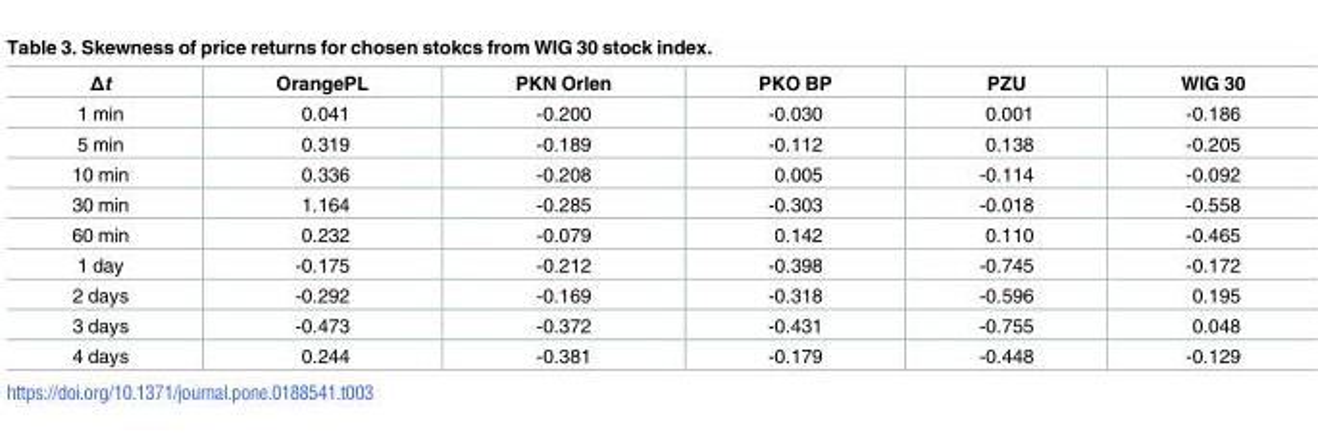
<table><thead><tr><td>Δt</td><td>OrangePL</td><td>PKN Orlen</td><td>PKO BP</td><td>PZU</td><td>WIG 30</td></tr></thead><tbody><tr><td>1 min</td><td>0.041</td><td>-0.200</td><td>-0.030</td><td>0.001</td><td>-0.186</td></tr><tr><td>5 min</td><td>0.319</td><td>-0.189</td><td>-0.112</td><td>0.138</td><td>-0.205</td></tr><tr><td>10 min</td><td>0.336</td><td>-0.208</td><td>0.005</td><td>-0.114</td><td>-0.092</td></tr><tr><td>30 min</td><td>1.164</td><td>-0.285</td><td>-0.303</td><td>-0.018</td><td>-0.558</td></tr><tr><td>60 min</td><td>0.232</td><td>-0.079</td><td>0.142</td><td>0.110</td><td>-0.465</td></tr><tr><td>1 day</td><td>-0.175</td><td>-0.212</td><td>-0.398</td><td>-0.745</td><td>-0.172</td></tr><tr><td>2 days</td><td>-0.292</td><td>-0.169</td><td>-0.318</td><td>-0.596</td><td>0.195</td></tr><tr><td>3 days</td><td>-0.473</td><td>-0.372</td><td>-0.431</td><td>-0.755</td><td>0.048</td></tr><tr><td>4 days</td><td>0.244</td><td>-0.381</td><td>-0.179</td><td>-0.448</td><td>-0.129</td></tr></tbody></table>